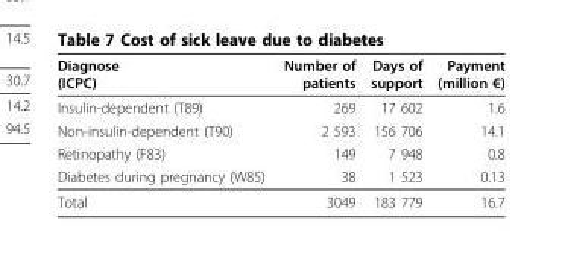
<table><thead><tr><td>Diagnose (ICPC)</td><td>Number of patients</td><td>Days of support</td><td>Payment (million €)</td></tr></thead><tbody><tr><td>Insulin-dependent (T89)</td><td>269</td><td>17 602</td><td>1.6</td></tr><tr><td>Non-insulin-dependent (T90)</td><td>2 593</td><td>156 706</td><td>14.1</td></tr><tr><td>Retinopathy (F83)</td><td>149</td><td>7 948</td><td>0.8</td></tr><tr><td>Diabetes during pregnancy (W85)</td><td>38</td><td>1 523</td><td>0.13</td></tr><tr><td>Total</td><td>3049</td><td>183 779</td><td>16.7</td></tr></tbody></table>